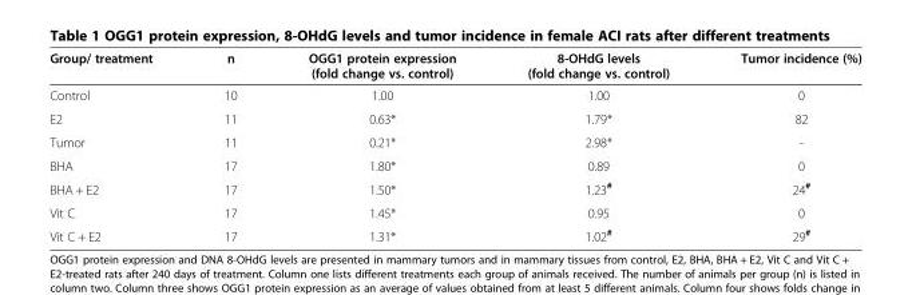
<table><thead><tr><td>Group/ treatment</td><td>n</td><td>OGG1 protein expression (fold change vs. control)</td><td>8-OHdG levels (fold change vs. control)</td><td>Tumor incidence (%)</td></tr></thead><tbody><tr><td>Control</td><td>10</td><td>1.00</td><td>1.00</td><td>0</td></tr><tr><td>E2</td><td>11</td><td>0.63*</td><td>1.79*</td><td>82</td></tr><tr><td>Tumor</td><td>11</td><td>0.21*</td><td>2.98*</td><td>-</td></tr><tr><td>BHA</td><td>17</td><td>1.80*</td><td>0.89</td><td>0</td></tr><tr><td>BHA + E2</td><td>17</td><td>1.50*</td><td>1.23<sup>#</sup></td><td>24<sup>#</sup></td></tr><tr><td>Vit C</td><td>17</td><td>1.45*</td><td>0.95</td><td>0</td></tr><tr><td>Vit C + E2</td><td>17</td><td>1.31*</td><td>1.02<sup>#</sup></td><td>29<sup>#</sup></td></tr></tbody></table>